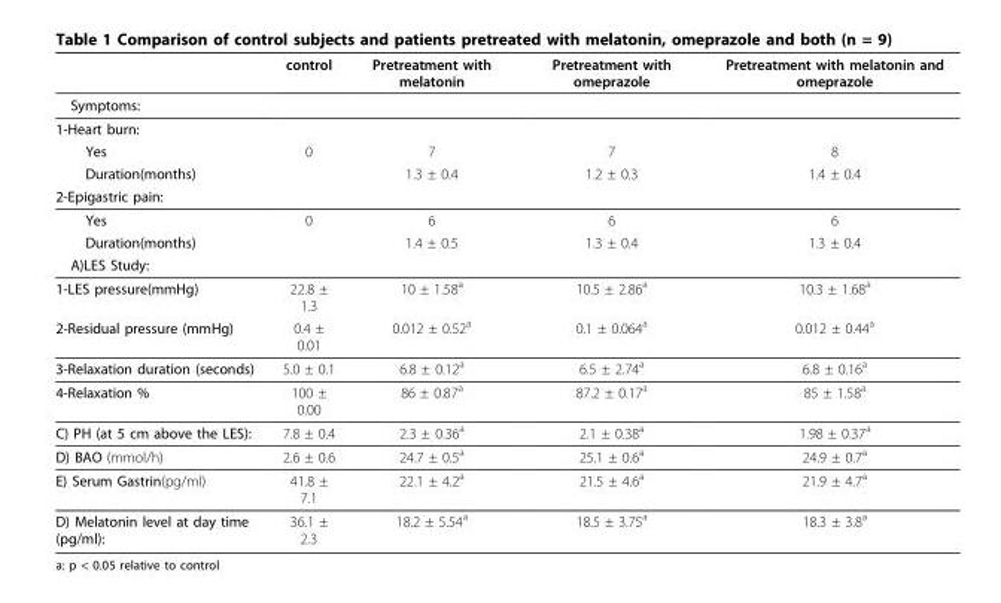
<table><thead><tr><td></td><td>control</td><td>Pretreatment with melatonin</td><td>Pretreatment with omeprazole</td><td>Pretreatment with melatonin and omeprazole</td></tr></thead><tbody><tr><td colspan="5">Symptoms:</td></tr><tr><td colspan="5">1-Heart burn:</td></tr><tr><td>Yes</td><td>0</td><td>7</td><td>7</td><td>8</td></tr><tr><td>Duration(months)</td><td></td><td>1.3 ± 0.4</td><td>1.2 ± 0.3</td><td>1.4 ± 0.4</td></tr><tr><td colspan="5">2-Epigastric pain:</td></tr><tr><td>Yes</td><td>0</td><td>6</td><td>6</td><td>6</td></tr><tr><td>Duration(months)</td><td></td><td>1.4 ± 0.5</td><td>1.3 ± 0.4</td><td>1.3 ± 0.4</td></tr><tr><td colspan="5">A)LES Study:</td></tr><tr><td>1-LES pressure(mmHg)</td><td>22.8 ± 1.3</td><td>10 ± 1.58<sup>a</sup></td><td>10.5 ± 2.86<sup>a</sup></td><td>10.3 ± 1.68<sup>a</sup></td></tr><tr><td>2-Residual pressure (mmHg)</td><td>0.4 ± 0.01</td><td>0.012 ± 0.52<sup>a</sup></td><td>0.1 ± 0.064<sup>a</sup></td><td>0.012 ± 0.44<sup>a</sup></td></tr><tr><td>3-Relaxation duration (seconds)</td><td>5.0 ± 0.1</td><td>6.8 ± 0.12<sup>a</sup></td><td>6.5 ± 2.74<sup>a</sup></td><td>6.8 ± 0.16<sup>a</sup></td></tr><tr><td>4-Relaxation %</td><td>100 ± 0.00</td><td>86 ± 0.87<sup>a</sup></td><td>87.2 ± 0.17<sup>a</sup></td><td>85 ± 1.58<sup>a</sup></td></tr><tr><td>C) PH (at 5 cm above the LES):</td><td>7.8 ± 0.4</td><td>2.3 ± 0.36<sup>a</sup></td><td>2.1 ± 0.38<sup>a</sup></td><td>1.98 ± 0.37<sup>a</sup></td></tr><tr><td>D) BAO (mmol/h)</td><td>2.6 ± 0.6</td><td>24.7 ± 0.5<sup>a</sup></td><td>25.1 ± 0.6<sup>a</sup></td><td>24.9 ± 0.7<sup>a</sup></td></tr><tr><td>E) Serum Gastrin(pg/ml)</td><td>41.8 ± 7.1</td><td>22.1 ± 4.2<sup>a</sup></td><td>21.5 ± 4.6<sup>a</sup></td><td>21.9 ± 4.7<sup>a</sup></td></tr><tr><td>D) Melatonin level at day time (pg/ml):</td><td>36.1 ± 2.3</td><td>18.2 ± 5.54<sup>a</sup></td><td>18.5 ± 3.75<sup>a</sup></td><td>18.3 ± 3.8<sup>a</sup></td></tr></tbody></table>